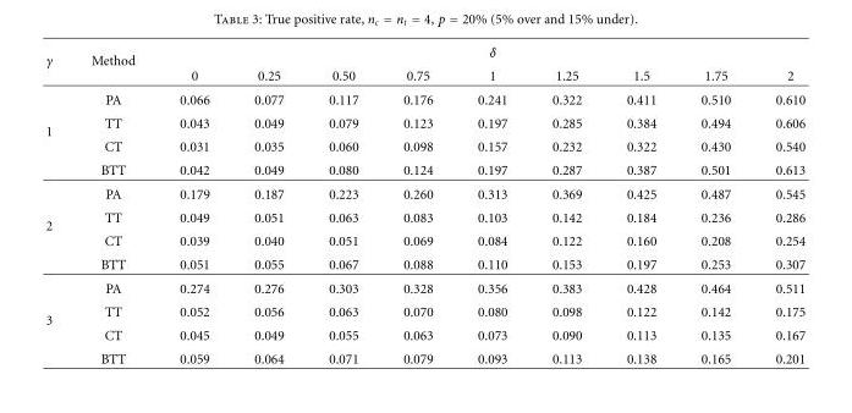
<table><thead><tr><td rowspan="2">γ</td><td rowspan="2">Method</td><td colspan="9">δ</td></tr><tr><td>0</td><td>0.25</td><td>0.50</td><td>0.75</td><td>1</td><td>1.25</td><td>1.5</td><td>1.75</td><td>2</td></tr></thead><tbody><tr><td rowspan="4">1</td><td>PA</td><td>0.066</td><td>0.077</td><td>0.117</td><td>0.176</td><td>0.241</td><td>0.322</td><td>0.411</td><td>0.510</td><td>0.610</td></tr><tr><td>TT</td><td>0.043</td><td>0.049</td><td>0.079</td><td>0.123</td><td>0.197</td><td>0.285</td><td>0.384</td><td>0.494</td><td>0.606</td></tr><tr><td>CT</td><td>0.031</td><td>0.035</td><td>0.060</td><td>0.098</td><td>0.157</td><td>0.232</td><td>0.322</td><td>0.430</td><td>0.540</td></tr><tr><td>BTT</td><td>0.042</td><td>0.049</td><td>0.080</td><td>0.124</td><td>0.197</td><td>0.287</td><td>0.387</td><td>0.501</td><td>0.613</td></tr><tr><td rowspan="4">2</td><td>PA</td><td>0.179</td><td>0.187</td><td>0.223</td><td>0.260</td><td>0.313</td><td>0.369</td><td>0.425</td><td>0.487</td><td>0.545</td></tr><tr><td>TT</td><td>0.049</td><td>0.051</td><td>0.063</td><td>0.083</td><td>0.103</td><td>0.142</td><td>0.184</td><td>0.236</td><td>0.286</td></tr><tr><td>CT</td><td>0.039</td><td>0.040</td><td>0.051</td><td>0.069</td><td>0.084</td><td>0.122</td><td>0.160</td><td>0.208</td><td>0.254</td></tr><tr><td>BTT</td><td>0.051</td><td>0.055</td><td>0.067</td><td>0.088</td><td>0.110</td><td>0.153</td><td>0.197</td><td>0.253</td><td>0.307</td></tr><tr><td rowspan="4">3</td><td>PA</td><td>0.274</td><td>0.276</td><td>0.303</td><td>0.328</td><td>0.356</td><td>0.383</td><td>0.428</td><td>0.464</td><td>0.511</td></tr><tr><td>TT</td><td>0.052</td><td>0.056</td><td>0.063</td><td>0.070</td><td>0.080</td><td>0.098</td><td>0.122</td><td>0.142</td><td>0.175</td></tr><tr><td>CT</td><td>0.045</td><td>0.049</td><td>0.055</td><td>0.063</td><td>0.073</td><td>0.090</td><td>0.113</td><td>0.135</td><td>0.167</td></tr><tr><td>BTT</td><td>0.059</td><td>0.064</td><td>0.071</td><td>0.079</td><td>0.093</td><td>0.113</td><td>0.138</td><td>0.165</td><td>0.201</td></tr></tbody></table>